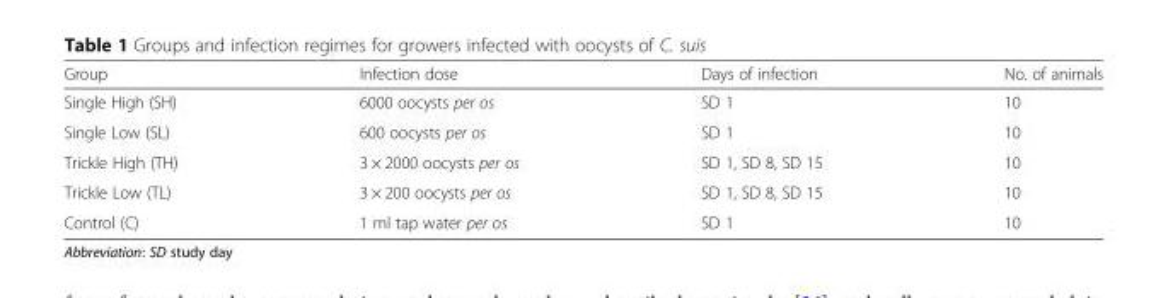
<table><thead><tr><td>Group</td><td>Infection dose</td><td>Days of infection</td><td>No. of animals</td></tr></thead><tbody><tr><td>Single High (SH)</td><td>6000 oocysts per os</td><td>SD 1</td><td>10</td></tr><tr><td>Single Low (SL)</td><td>600 oocysts per os</td><td>SD 1</td><td>10</td></tr><tr><td>Trickle High (TH)</td><td>3 × 2000 oocysts per os</td><td>SD 1, SD 8, SD 15</td><td>10</td></tr><tr><td>Trickle Low (TL)</td><td>3 × 200 oocysts per os</td><td>SD 1, SD 8, SD 15</td><td>10</td></tr><tr><td>Control (C)</td><td>1 ml tap water per os</td><td>SD 1</td><td>10</td></tr></tbody></table>